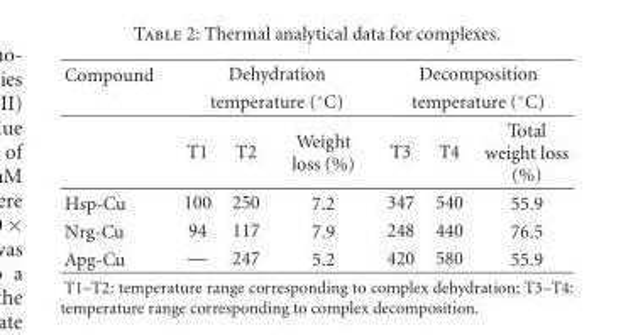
<table><thead><tr><td rowspan="3">Compound</td><td rowspan="2" colspan="3">Dehydration temperature (◦C)</td><td rowspan="2" colspan="3">Decomposition temperature (◦C)</td></tr><tr></tr><tr><td>T1</td><td>T2</td><td>Weight loss (%)</td><td>T3</td><td>T4</td><td>Total weight loss (%)</td></tr></thead><tbody><tr><td>Hsp-Cu</td><td>100</td><td>250</td><td>7.2</td><td>347</td><td>540</td><td>55.9</td></tr><tr><td>Nrg-Cu</td><td>94</td><td>117</td><td>7.9</td><td>248</td><td>440</td><td>76.5</td></tr><tr><td>Apg-Cu</td><td>—</td><td>247</td><td>5.2</td><td>420</td><td>580</td><td>55.9</td></tr></tbody></table>